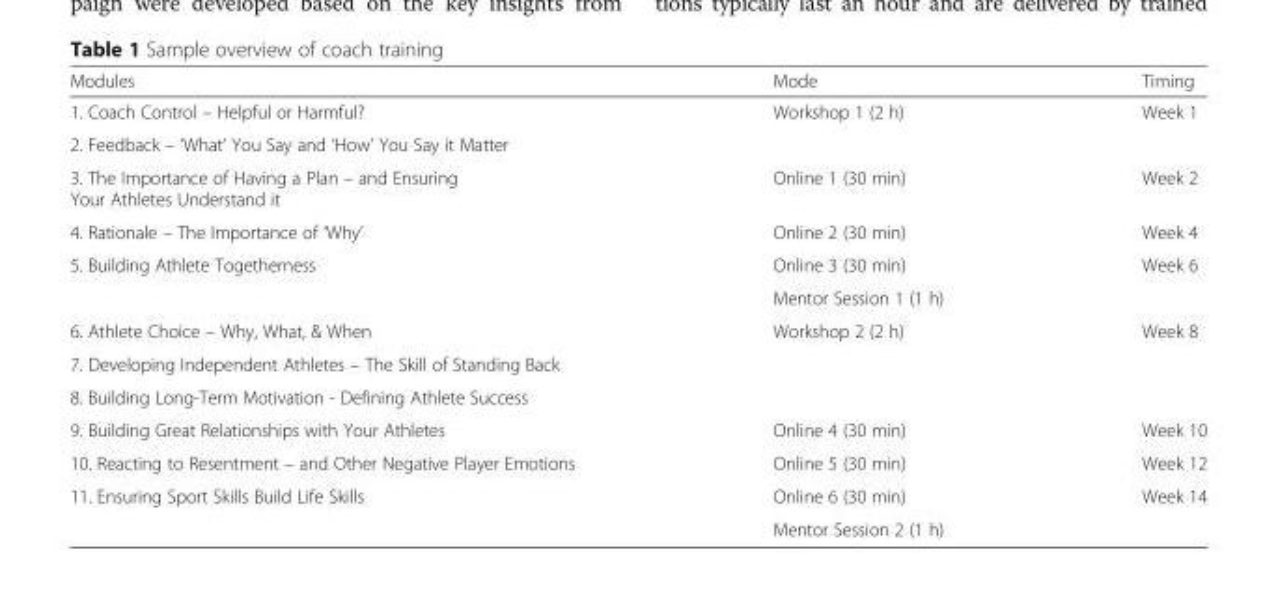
<table><thead><tr><td>Modules</td><td>Mode</td><td>Timing</td></tr></thead><tbody><tr><td>1. Coach Control – Helpful or Harmful?</td><td rowspan="2">Workshop 1 (2 h)</td><td rowspan="2">Week 1</td></tr><tr><td>2. Feedback – ‘What’ You Say and ‘How’ You Say it Matter</td></tr><tr><td>3. The Importance of Having a Plan – and Ensuring Your Athletes Understand it</td><td>Online 1 (30 min)</td><td>Week 2</td></tr><tr><td>4. Rationale – The Importance of ‘Why’</td><td>Online 2 (30 min)</td><td>Week 4</td></tr><tr><td rowspan="2">5. Building Athlete Togetherness</td><td>Online 3 (30 min)</td><td rowspan="2">Week 6</td></tr><tr><td>Mentor Session 1 (1 h)</td></tr><tr><td>6. Athlete Choice – Why, What, &amp; When</td><td rowspan="3">Workshop 2 (2 h)</td><td rowspan="3">Week 8</td></tr><tr><td>7. Developing Independent Athletes – The Skill of Standing Back</td></tr><tr><td>8. Building Long-Term Motivation - Defining Athlete Success</td></tr><tr><td>9. Building Great Relationships with Your Athletes</td><td>Online 4 (30 min)</td><td>Week 10</td></tr><tr><td>10. Reacting to Resentment – and Other Negative Player Emotions</td><td>Online 5 (30 min)</td><td>Week 12</td></tr><tr><td rowspan="2">11. Ensuring Sport Skills Build Life Skills</td><td>Online 6 (30 min)</td><td rowspan="2">Week 14</td></tr><tr><td>Mentor Session 2 (1 h)</td></tr></tbody></table>